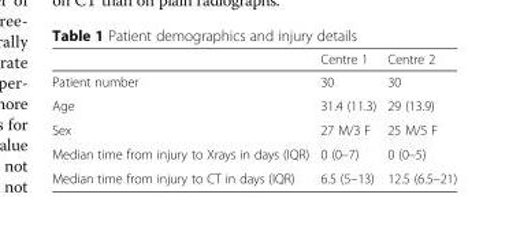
<table><thead><tr><td></td><td>Centre 1</td><td>Centre 2</td></tr></thead><tbody><tr><td>Patient number</td><td>30</td><td>30</td></tr><tr><td>Age</td><td>31.4 (11.3)</td><td>29 (13.9)</td></tr><tr><td>Sex</td><td>27 M/3 F</td><td>25 M/5 F</td></tr><tr><td>Median time from injury to Xrays in days (IQR)</td><td>0 (0–7)</td><td>0 (0–5)</td></tr><tr><td>Median time from injury to CT in days (IQR)</td><td>6.5 (5–13)</td><td>12.5 (6.5–21)</td></tr></tbody></table>